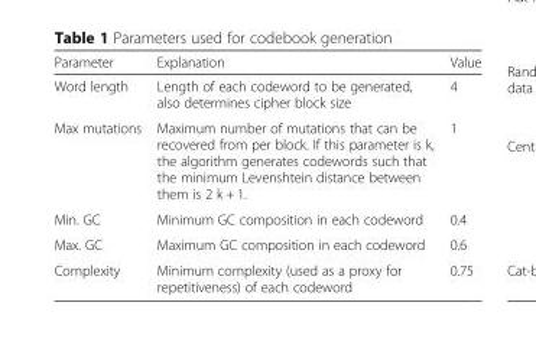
<table><thead><tr><td>Parameter</td><td>Explanation</td><td>Value</td></tr></thead><tbody><tr><td>Word length</td><td>Length of each codeword to be generated, also determines cipher block size</td><td>4</td></tr><tr><td>Max mutations</td><td>Maximum number of mutations that can be recovered from per block. If this parameter is k, the algorithm generates codewords such that the minimum Levenshtein distance between them is 2 k + 1.</td><td>1</td></tr><tr><td>Min. GC</td><td>Minimum GC composition in each codeword</td><td>0.4</td></tr><tr><td>Max. GC</td><td>Maximum GC composition in each codeword</td><td>0.6</td></tr><tr><td>Complexity</td><td>Minimum complexity (used as a proxy for repetitiveness) of each codeword</td><td>0.75</td></tr></tbody></table>